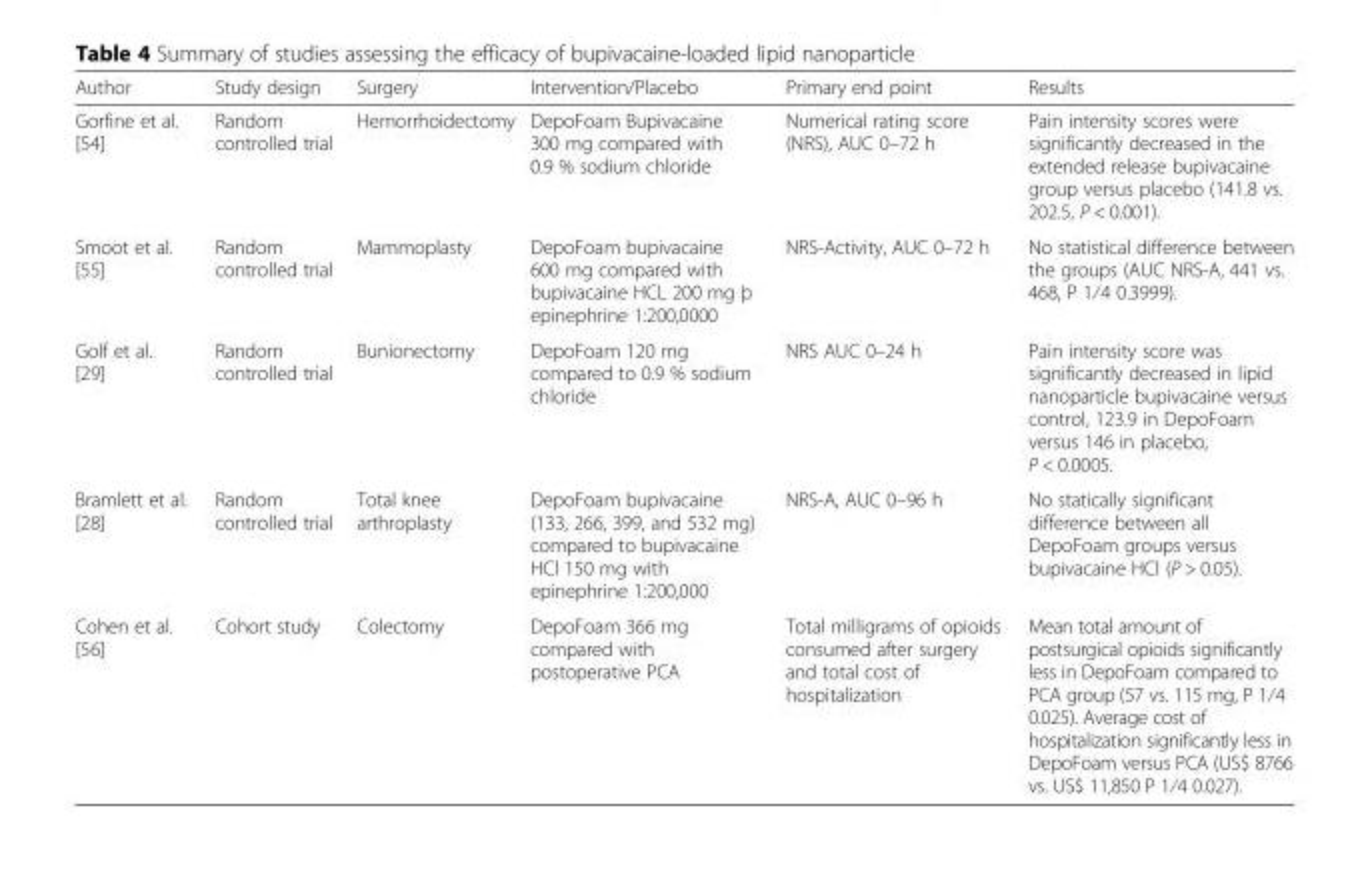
<table><thead><tr><td>Author</td><td>Study design</td><td>Surgery</td><td>Intervention/Placebo</td><td>Primary end point</td><td>Results</td></tr></thead><tbody><tr><td>Gorfine et al. [54]</td><td>Random controlled trial</td><td>Hemorrhoidectomy</td><td>DepoFoam Bupivacaine 300 mg compared with 0.9 % sodium chloride</td><td>Numerical rating score (NRS), AUC 0–72 h</td><td>Pain intensity scores were significantly decreased in the extended release bupivacaine group versus placebo (141.8 vs. 202.5, P &lt; 0.001).</td></tr><tr><td>Smoot et al. [55]</td><td>Random controlled trial</td><td>Mammoplasty</td><td>DepoFoam bupivacaine 600 mg compared with bupivacaine HCL 200 mg þ epinephrine 1:200,0000</td><td>NRS-Activity, AUC 0–72 h</td><td>No statistical difference between the groups (AUC NRS-A, 441 vs. 468, P 1⁄4 0.3999).</td></tr><tr><td>Golf et al. [29]</td><td>Random controlled trial</td><td>Bunionectomy</td><td>DepoFoam 120 mg compared to 0.9 % sodium chloride</td><td>NRS AUC 0–24 h</td><td>Pain intensity score was significantly decreased in lipid nanoparticle bupivacaine versus control, 123.9 in DepoFoam versus 146 in placebo, P &lt; 0.0005.</td></tr><tr><td>Bramlett et al. [28]</td><td>Random controlled trial</td><td>Total knee arthroplasty</td><td>DepoFoam bupivacaine (133, 266, 399, and 532 mg) compared to bupivacaine HCl 150 mg with epinephrine 1:200,000</td><td>NRS-A, AUC 0–96 h</td><td>No statically significant difference between all DepoFoam groups versus bupivacaine HCl (P &gt; 0.05).</td></tr><tr><td>Cohen et al. [56]</td><td>Cohort study</td><td>Colectomy</td><td>DepoFoam 366 mg compared with postoperative PCA</td><td>Total milligrams of opioids consumed after surgery and total cost of hospitalization</td><td>Mean total amount of postsurgical opioids significantly less in DepoFoam compared to PCA group (57 vs. 115 mg, P 1⁄4 0.025). Average cost of hospitalization significantly less in DepoFoam versus PCA (US$ 8766 vs. US$ 11,850 P 1⁄4 0.027).</td></tr></tbody></table>